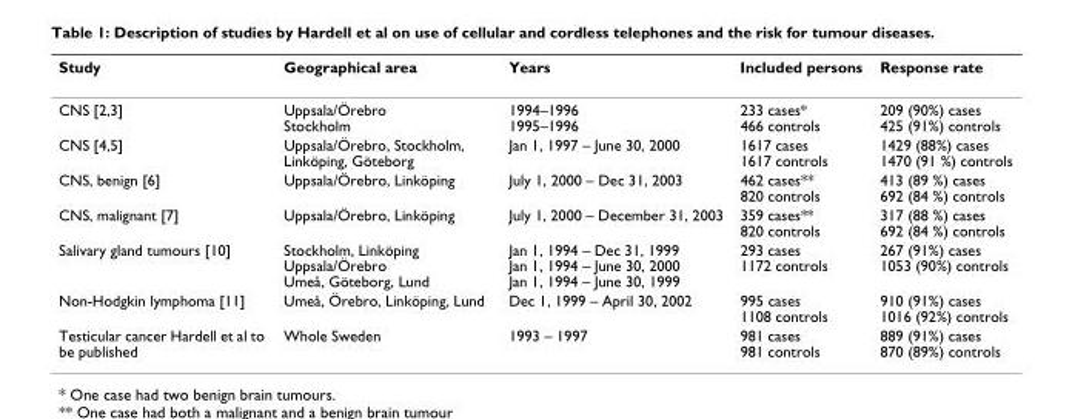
<table><thead><tr><td>Study</td><td>Geographical area</td><td>Years</td><td>Included persons</td><td>Response rate</td></tr></thead><tbody><tr><td>CNS [2,3]</td><td>Uppsala/Örebro Stockholm</td><td>1994–1996 1995–1996</td><td>233 cases* 466 controls</td><td>209 (90%) cases 425 (91%) controls</td></tr><tr><td>CNS [4,5]</td><td>Uppsala/Örebro, Stockholm, Linköping, Göteborg</td><td>Jan 1, 1997 – June 30, 2000</td><td>1617 cases 1617 controls</td><td>1429 (88%) cases 1470 (91 %) controls</td></tr><tr><td>CNS, benign [6]</td><td>Uppsala/Örebro, Linköping</td><td>July 1, 2000 – Dec 31, 2003</td><td>462 cases** 820 controls</td><td>413 (89 %) cases 692 (84 %) controls</td></tr><tr><td>CNS, malignant [7]</td><td>Uppsala/Örebro, Linköping</td><td>July 1, 2000 – December 31, 2003</td><td>359 cases** 820 controls</td><td>317 (88 %) cases 692 (84 %) controls</td></tr><tr><td>Salivary gland tumours [10]</td><td>Stockholm, Linköping Uppsala/Örebro Umeå, Göteborg, Lund</td><td>Jan 1, 1994 – Dec 31, 1999 Jan 1, 1994 – June 30, 2000 Jan 1, 1994 – June 30, 1999</td><td>293 cases 1172 controls</td><td>267 (91%) cases 1053 (90%) controls</td></tr><tr><td>Non-Hodgkin lymphoma [11]</td><td>Umeå, Örebro, Linköping, Lund</td><td>Dec 1, 1999 – April 30, 2002</td><td>995 cases 1108 controls</td><td>910 (91%) cases 1016 (92%) controls</td></tr><tr><td>Testicular cancer Hardell et al to be published</td><td>Whole Sweden</td><td>1993 – 1997</td><td>981 cases 981 controls</td><td>889 (91%) cases 870 (89%) controls</td></tr></tbody></table>